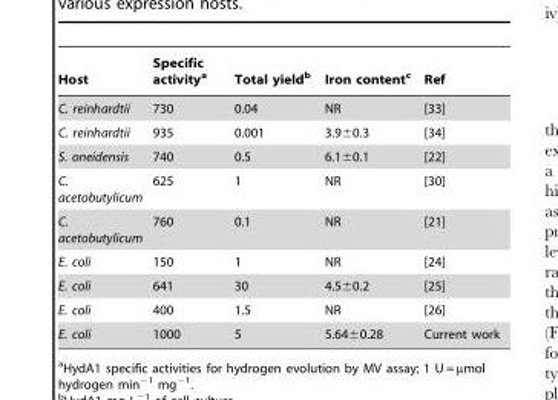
<table><thead><tr><td>Host</td><td>Specific activity<sup>a</sup></td><td>Total yield<sup>b</sup></td><td>Iron content<sup>c</sup></td><td>Ref</td></tr></thead><tbody><tr><td>C. reinhardtii</td><td>730</td><td>0.04</td><td>NR</td><td>[33]</td></tr><tr><td>C. reinhardtii</td><td>935</td><td>0.001</td><td>3.9±0.3</td><td>[34]</td></tr><tr><td>S. oneidensis</td><td>740</td><td>0.5</td><td>6.1±0.1</td><td>[22]</td></tr><tr><td>C. acetobutylicum</td><td>625</td><td>1</td><td>NR</td><td>[30]</td></tr><tr><td>C. acetobutylicum</td><td>760</td><td>0.1</td><td>NR</td><td>[21]</td></tr><tr><td>E. coli</td><td>150</td><td>1</td><td>NR</td><td>[24]</td></tr><tr><td>E. coli</td><td>641</td><td>30</td><td>4.5±0.2</td><td>[25]</td></tr><tr><td>E. coli</td><td>400</td><td>1.5</td><td>NR</td><td>[26]</td></tr><tr><td>E. coli</td><td>1000</td><td>5</td><td>5.64±0.28</td><td>Current work</td></tr></tbody></table>